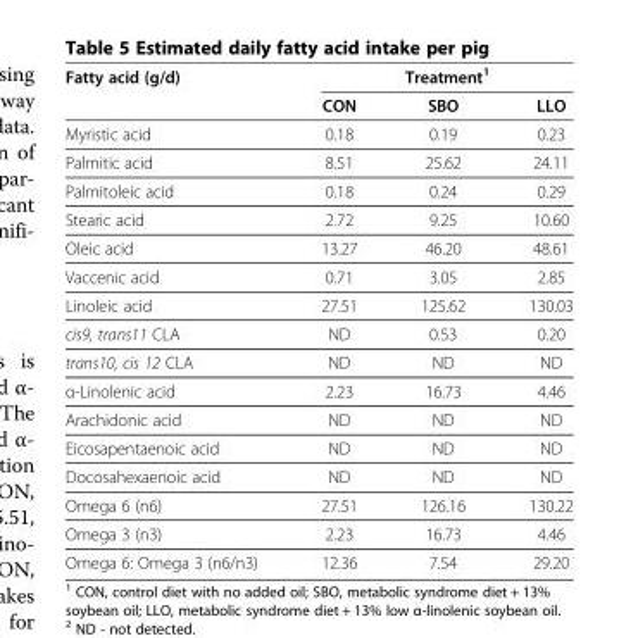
<table><thead><tr><td rowspan="2">Fatty acid (g/d)</td><td colspan="3">Treatment<sup>1</sup></td></tr><tr><td>CON</td><td>SBO</td><td>LLO</td></tr></thead><tbody><tr><td>Myristic acid</td><td>0.18</td><td>0.19</td><td>0.23</td></tr><tr><td>Palmitic acid</td><td>8.51</td><td>25.62</td><td>24.11</td></tr><tr><td>Palmitoleic acid</td><td>0.18</td><td>0.24</td><td>0.29</td></tr><tr><td>Stearic acid</td><td>2.72</td><td>9.25</td><td>10.60</td></tr><tr><td>Oleic acid</td><td>13.27</td><td>46.20</td><td>48.61</td></tr><tr><td>Vaccenic acid</td><td>0.71</td><td>3.05</td><td>2.85</td></tr><tr><td>Linoleic acid</td><td>27.51</td><td>125.62</td><td>130.03</td></tr><tr><td>cis9, trans11 CLA</td><td>ND</td><td>0.53</td><td>0.20</td></tr><tr><td>trans10, cis 12 CLA</td><td>ND</td><td>ND</td><td>ND</td></tr><tr><td>α-Linolenic acid</td><td>2.23</td><td>16.73</td><td>4.46</td></tr><tr><td>Arachidonic acid</td><td>ND</td><td>ND</td><td>ND</td></tr><tr><td>Eicosapentaenoic acid</td><td>ND</td><td>ND</td><td>ND</td></tr><tr><td>Docosahexaenoic acid</td><td>ND</td><td>ND</td><td>ND</td></tr><tr><td>Omega 6 (n6)</td><td>27.51</td><td>126.16</td><td>130.22</td></tr><tr><td>Omega 3 (n3)</td><td>2.23</td><td>16.73</td><td>4.46</td></tr><tr><td>Omega 6: Omega 3 (n6/n3)</td><td>12.36</td><td>7.54</td><td>29.20</td></tr></tbody></table>